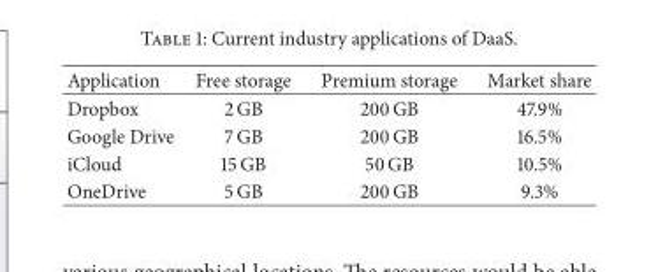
<table><thead><tr><td>Application</td><td>Free storage</td><td>Premium storage</td><td>Market share</td></tr></thead><tbody><tr><td>Dropbox</td><td>2 GB</td><td>200 GB</td><td>47.9%</td></tr><tr><td>Google Drive</td><td>7 GB</td><td>200 GB</td><td>16.5%</td></tr><tr><td>iCloud</td><td>15 GB</td><td>50 GB</td><td>10.5%</td></tr><tr><td>OneDrive</td><td>5 GB</td><td>200 GB</td><td>9.3%</td></tr></tbody></table>